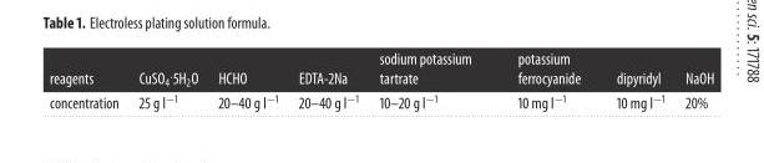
<table><thead><tr><td>reagents</td><td>CuSO<sub>4</sub><sup>.</sup>5H<sub>2</sub>O</td><td>HCHO</td><td>EDTA-2Na</td><td>sodium potassium tartrate</td><td>potassium ferrocyanide</td><td>dipyridyl</td><td>NaOH</td></tr></thead><tbody><tr><td>concentration</td><td>25 g l<sup>−1</sup></td><td>20–40 g l<sup>−1</sup></td><td>20–40 g l<sup>−1</sup></td><td>10–20 g l<sup>−1</sup></td><td>10 mg l<sup>−1</sup></td><td>10 mg l<sup>−1</sup></td><td>20%</td></tr></tbody></table>